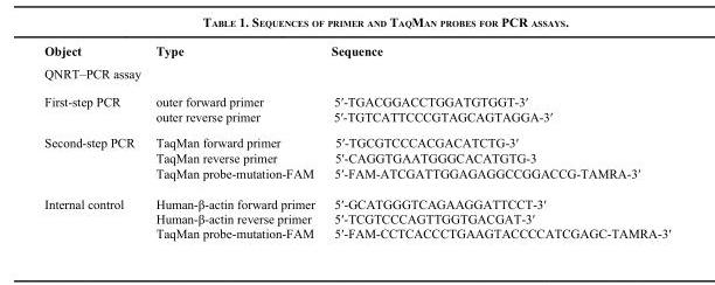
<table><thead><tr><td>Object</td><td>Type</td><td>Sequence</td></tr></thead><tbody><tr><td colspan="3">QNRT–PCR assay</td></tr><tr><td rowspan="2">First-step PCR</td><td>outer forward primer</td><td>5′-TGACGGACCTGGATGTGGT-3′</td></tr><tr><td>outer reverse primer</td><td>5′-TGTCATTCCCGTAGCAGTAGGA-3′</td></tr><tr><td rowspan="3">Second-step PCR</td><td>TaqMan forward primer</td><td>5′-TGCGTCCCACGACATCTG-3′</td></tr><tr><td>TaqMan reverse primer</td><td>5′-CAGGTGAATGGGCACATGTG-3</td></tr><tr><td>TaqMan probe-mutation-FAM</td><td>5′-FAM-ATCGATTGGAGAGGCCGGACCG-TAMRA-3′</td></tr><tr><td rowspan="3">Internal control</td><td>Human-β-actin forward primer</td><td>5′-GCATGGGTCAGAAGGATTCCT-3′</td></tr><tr><td>Human-β-actin reverse primer</td><td>5′-TCGTCCCAGTTGGTGACGAT-3′</td></tr><tr><td>TaqMan probe-mutation-FAM</td><td>5′-FAM-CCTCACCCTGAAGTACCCCATCGAGC-TAMRA-3′</td></tr></tbody></table>